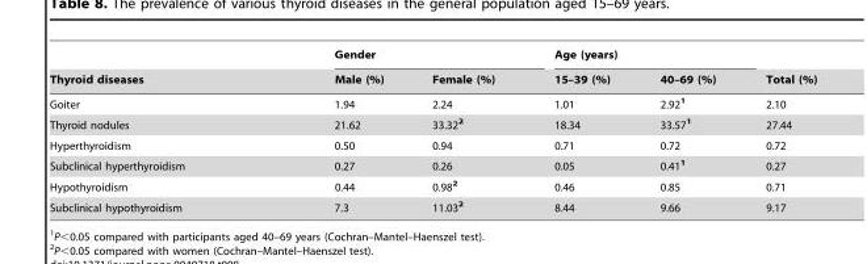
<table><thead><tr><td rowspan="2">Thyroid diseases</td><td colspan="2">Gender</td><td colspan="2">Age (years)</td><td rowspan="2">Total (%)</td></tr><tr><td>Male (%)</td><td>Female (%)</td><td>15–39 (%)</td><td>40–69 (%)</td></tr></thead><tbody><tr><td>Goiter</td><td>1.94</td><td>2.24</td><td>1.01</td><td>2.92<sup>1</sup></td><td>2.10</td></tr><tr><td>Thyroid nodules</td><td>21.62</td><td>33.32<sup>2</sup></td><td>18.34</td><td>33.57<sup>1</sup></td><td>27.44</td></tr><tr><td>Hyperthyroidism</td><td>0.50</td><td>0.94</td><td>0.71</td><td>0.72</td><td>0.72</td></tr><tr><td>Subclinical hyperthyroidism</td><td>0.27</td><td>0.26</td><td>0.05</td><td>0.41<sup>1</sup></td><td>0.27</td></tr><tr><td>Hypothyroidism</td><td>0.44</td><td>0.98<sup>2</sup></td><td>0.46</td><td>0.85</td><td>0.71</td></tr><tr><td>Subclinical hypothyroidism</td><td>7.3</td><td>11.03<sup>2</sup></td><td>8.44</td><td>9.66</td><td>9.17</td></tr></tbody></table>